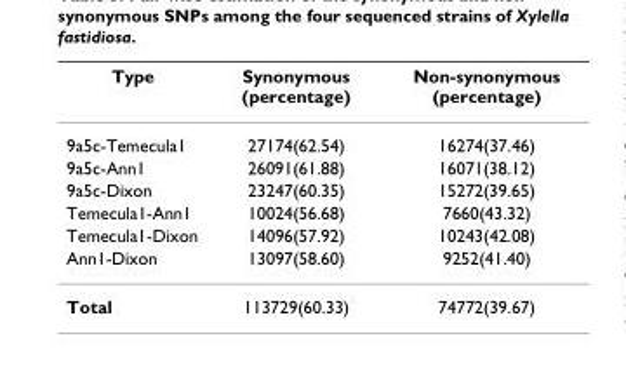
<table><thead><tr><td>Type</td><td>Synonymous (percentage)</td><td>Non-synonymous (percentage)</td></tr></thead><tbody><tr><td>9a5c-Temecula1</td><td>27174(62.54)</td><td>16274(37.46)</td></tr><tr><td>9a5c-Ann1</td><td>26091(61.88)</td><td>16071(38.12)</td></tr><tr><td>9a5c-Dixon</td><td>23247(60.35)</td><td>15272(39.65)</td></tr><tr><td>Temecula1-Ann1</td><td>10024(56.68)</td><td>7660(43.32)</td></tr><tr><td>Temecula1-Dixon</td><td>14096(57.92)</td><td>10243(42.08)</td></tr><tr><td>Ann1-Dixon</td><td>13097(58.60)</td><td>9252(41.40)</td></tr><tr><td>Total</td><td>113729(60.33)</td><td>74772(39.67)</td></tr></tbody></table>